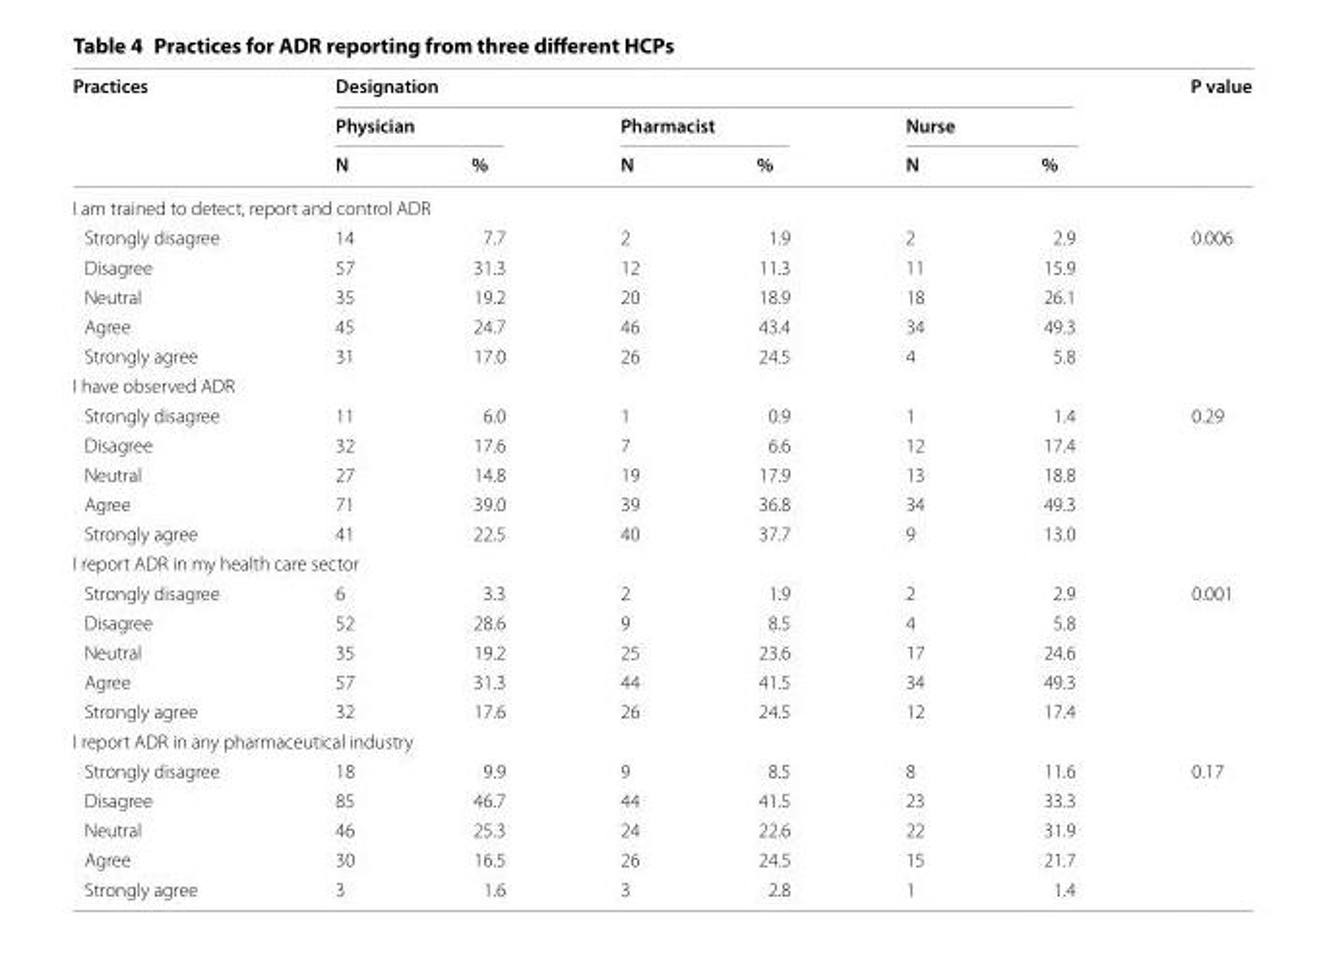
<table><thead><tr><td rowspan="3">Practices</td><td colspan="6">Designation</td><td rowspan="3">P value</td></tr><tr><td colspan="2">Physician</td><td colspan="2">Pharmacist</td><td colspan="2">Nurse</td></tr><tr><td>N</td><td>%</td><td>N</td><td>%</td><td>N</td><td>%</td></tr></thead><tbody><tr><td colspan="8">I am trained to detect, report and control ADR</td></tr><tr><td>Strongly disagree</td><td>14</td><td>7.7</td><td>2</td><td>1.9</td><td>2</td><td>2.9</td><td>0.006</td></tr><tr><td>Disagree</td><td>57</td><td>31.3</td><td>12</td><td>11.3</td><td>11</td><td>15.9</td><td></td></tr><tr><td>Neutral</td><td>35</td><td>19.2</td><td>20</td><td>18.9</td><td>18</td><td>26.1</td><td></td></tr><tr><td>Agree</td><td>45</td><td>24.7</td><td>46</td><td>43.4</td><td>34</td><td>49.3</td><td></td></tr><tr><td>Strongly agree</td><td>31</td><td>17.0</td><td>26</td><td>24.5</td><td>4</td><td>5.8</td><td></td></tr><tr><td colspan="8">I have observed ADR</td></tr><tr><td>Strongly disagree</td><td>11</td><td>6.0</td><td>1</td><td>0.9</td><td>1</td><td>1.4</td><td>0.29</td></tr><tr><td>Disagree</td><td>32</td><td>17.6</td><td>7</td><td>6.6</td><td>12</td><td>17.4</td><td></td></tr><tr><td>Neutral</td><td>27</td><td>14.8</td><td>19</td><td>17.9</td><td>13</td><td>18.8</td><td></td></tr><tr><td>Agree</td><td>71</td><td>39.0</td><td>39</td><td>36.8</td><td>34</td><td>49.3</td><td></td></tr><tr><td>Strongly agree</td><td>41</td><td>22.5</td><td>40</td><td>37.7</td><td>9</td><td>13.0</td><td></td></tr><tr><td colspan="8">I report ADR in my health care sector</td></tr><tr><td>Strongly disagree</td><td>6</td><td>3.3</td><td>2</td><td>1.9</td><td>2</td><td>2.9</td><td>0.001</td></tr><tr><td>Disagree</td><td>52</td><td>28.6</td><td>9</td><td>8.5</td><td>4</td><td>5.8</td><td></td></tr><tr><td>Neutral</td><td>35</td><td>19.2</td><td>25</td><td>23.6</td><td>17</td><td>24.6</td><td></td></tr><tr><td>Agree</td><td>57</td><td>31.3</td><td>44</td><td>41.5</td><td>34</td><td>49.3</td><td></td></tr><tr><td>Strongly agree</td><td>32</td><td>17.6</td><td>26</td><td>24.5</td><td>12</td><td>17.4</td><td></td></tr><tr><td colspan="8">I report ADR in any pharmaceutical industry</td></tr><tr><td>Strongly disagree</td><td>18</td><td>9.9</td><td>9</td><td>8.5</td><td>8</td><td>11.6</td><td>0.17</td></tr><tr><td>Disagree</td><td>85</td><td>46.7</td><td>44</td><td>41.5</td><td>23</td><td>33.3</td><td></td></tr><tr><td>Neutral</td><td>46</td><td>25.3</td><td>24</td><td>22.6</td><td>22</td><td>31.9</td><td></td></tr><tr><td>Agree</td><td>30</td><td>16.5</td><td>26</td><td>24.5</td><td>15</td><td>21.7</td><td></td></tr><tr><td>Strongly agree</td><td>3</td><td>1.6</td><td>3</td><td>2.8</td><td>1</td><td>1.4</td><td></td></tr></tbody></table>